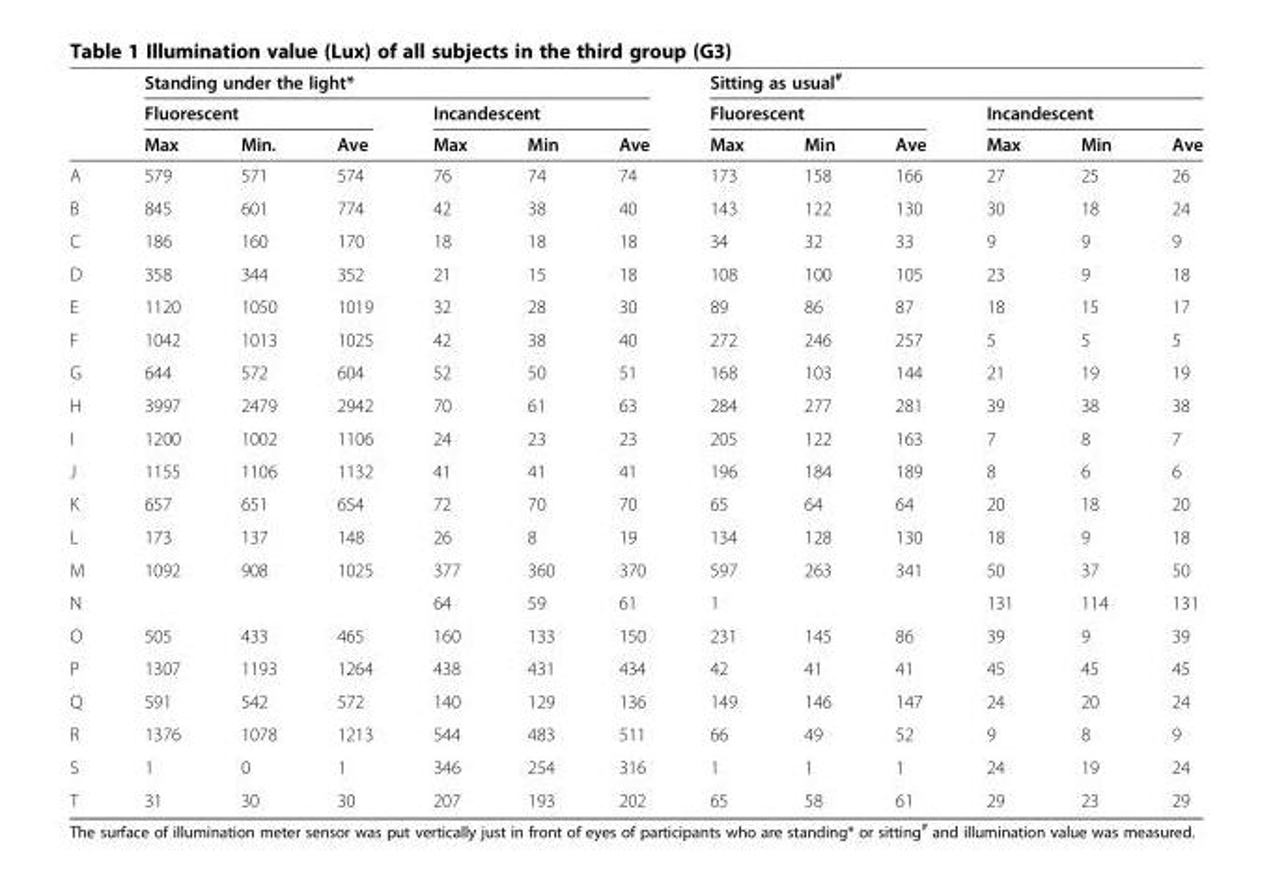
<table><thead><tr><td rowspan="3"></td><td colspan="6">Standing under the light*</td><td colspan="6">Sitting as usual<sup>#</sup></td></tr><tr><td colspan="3">Fluorescent</td><td colspan="3">Incandescent</td><td colspan="3">Fluorescent</td><td colspan="3">Incandescent</td></tr><tr><td>Max</td><td>Min.</td><td>Ave</td><td>Max</td><td>Min</td><td>Ave</td><td>Max</td><td>Min</td><td>Ave</td><td>Max</td><td>Min</td><td>Ave</td></tr></thead><tbody><tr><td>A</td><td>579</td><td>571</td><td>574</td><td>76</td><td>74</td><td>74</td><td>173</td><td>158</td><td>166</td><td>27</td><td>25</td><td>26</td></tr><tr><td>B</td><td>845</td><td>601</td><td>774</td><td>42</td><td>38</td><td>40</td><td>143</td><td>122</td><td>130</td><td>30</td><td>18</td><td>24</td></tr><tr><td>C</td><td>186</td><td>160</td><td>170</td><td>18</td><td>18</td><td>18</td><td>34</td><td>32</td><td>33</td><td>9</td><td>9</td><td>9</td></tr><tr><td>D</td><td>358</td><td>344</td><td>352</td><td>21</td><td>15</td><td>18</td><td>108</td><td>100</td><td>105</td><td>23</td><td>9</td><td>18</td></tr><tr><td>E</td><td>1120</td><td>1050</td><td>1019</td><td>32</td><td>28</td><td>30</td><td>89</td><td>86</td><td>87</td><td>18</td><td>15</td><td>17</td></tr><tr><td>F</td><td>1042</td><td>1013</td><td>1025</td><td>42</td><td>38</td><td>40</td><td>272</td><td>246</td><td>257</td><td>5</td><td>5</td><td>5</td></tr><tr><td>G</td><td>644</td><td>572</td><td>604</td><td>52</td><td>50</td><td>51</td><td>168</td><td>103</td><td>144</td><td>21</td><td>19</td><td>19</td></tr><tr><td>H</td><td>3997</td><td>2479</td><td>2942</td><td>70</td><td>61</td><td>63</td><td>284</td><td>277</td><td>281</td><td>39</td><td>38</td><td>38</td></tr><tr><td>I</td><td>1200</td><td>1002</td><td>1106</td><td>24</td><td>23</td><td>23</td><td>205</td><td>122</td><td>163</td><td>7</td><td>8</td><td>7</td></tr><tr><td>J</td><td>1155</td><td>1106</td><td>1132</td><td>41</td><td>41</td><td>41</td><td>196</td><td>184</td><td>189</td><td>8</td><td>6</td><td>6</td></tr><tr><td>K</td><td>657</td><td>651</td><td>654</td><td>72</td><td>70</td><td>70</td><td>65</td><td>64</td><td>64</td><td>20</td><td>18</td><td>20</td></tr><tr><td>L</td><td>173</td><td>137</td><td>148</td><td>26</td><td>8</td><td>19</td><td>134</td><td>128</td><td>130</td><td>18</td><td>9</td><td>18</td></tr><tr><td>M</td><td>1092</td><td>908</td><td>1025</td><td>377</td><td>360</td><td>370</td><td>597</td><td>263</td><td>341</td><td>50</td><td>37</td><td>50</td></tr><tr><td>N</td><td></td><td></td><td></td><td>64</td><td>59</td><td>61</td><td>1</td><td></td><td></td><td>131</td><td>114</td><td>131</td></tr><tr><td>O</td><td>505</td><td>433</td><td>465</td><td>160</td><td>133</td><td>150</td><td>231</td><td>145</td><td>86</td><td>39</td><td>9</td><td>39</td></tr><tr><td>P</td><td>1307</td><td>1193</td><td>1264</td><td>438</td><td>431</td><td>434</td><td>42</td><td>41</td><td>41</td><td>45</td><td>45</td><td>45</td></tr><tr><td>Q</td><td>591</td><td>542</td><td>572</td><td>140</td><td>129</td><td>136</td><td>149</td><td>146</td><td>147</td><td>24</td><td>20</td><td>24</td></tr><tr><td>R</td><td>1376</td><td>1078</td><td>1213</td><td>544</td><td>483</td><td>511</td><td>66</td><td>49</td><td>52</td><td>9</td><td>8</td><td>9</td></tr><tr><td>S</td><td>1</td><td>0</td><td>1</td><td>346</td><td>254</td><td>316</td><td>1</td><td>1</td><td>1</td><td>24</td><td>19</td><td>24</td></tr><tr><td>T</td><td>31</td><td>30</td><td>30</td><td>207</td><td>193</td><td>202</td><td>65</td><td>58</td><td>61</td><td>29</td><td>23</td><td>29</td></tr></tbody></table>